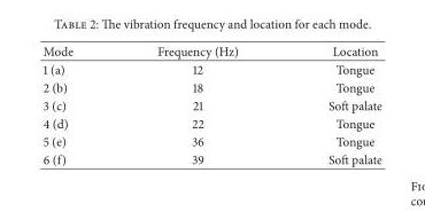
<table><thead><tr><td>Mode</td><td>Frequency (Hz)</td><td>Location</td></tr></thead><tbody><tr><td>1 (a)</td><td>12</td><td>Tongue</td></tr><tr><td>2 (b)</td><td>18</td><td>Tongue</td></tr><tr><td>3 (c)</td><td>21</td><td>Soft palate</td></tr><tr><td>4 (d)</td><td>22</td><td>Tongue</td></tr><tr><td>5 (e)</td><td>36</td><td>Tongue</td></tr><tr><td>6 (f)</td><td>39</td><td>Soft palate</td></tr></tbody></table>